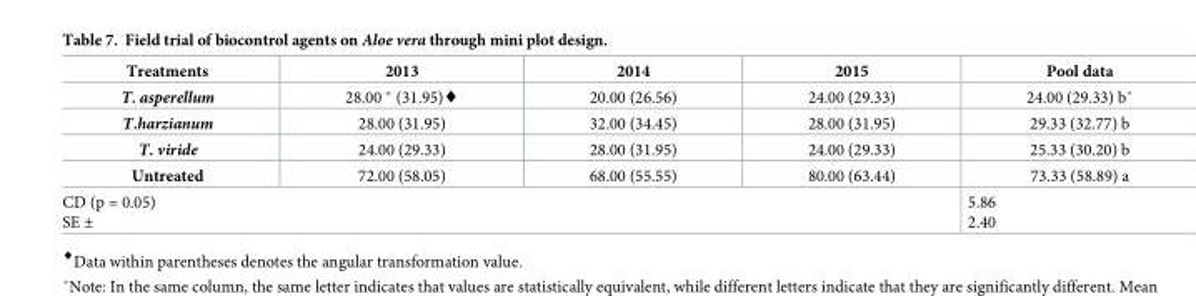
<table><thead><tr><td>Treatments</td><td>2013</td><td>2014</td><td>2015</td><td>Pool data</td></tr></thead><tbody><tr><td>T. asperellum</td><td>28.00 * (31.95)♦</td><td>20.00 (26.56)</td><td>24.00 (29.33)</td><td>24.00 (29.33) b˚</td></tr><tr><td>T.harzianum</td><td>28.00 (31.95)</td><td>32.00 (34.45)</td><td>28.00 (31.95)</td><td>29.33 (32.77) b</td></tr><tr><td>T. viride</td><td>24.00 (29.33)</td><td>28.00 (31.95)</td><td>24.00 (29.33)</td><td>25.33 (30.20) b</td></tr><tr><td>Untreated</td><td>72.00 (58.05)</td><td>68.00 (55.55)</td><td>80.00 (63.44)</td><td>73.33 (58.89) a</td></tr><tr><td colspan="4">CD (p = 0.05) SE ±</td><td>5.86 2.40</td></tr></tbody></table>